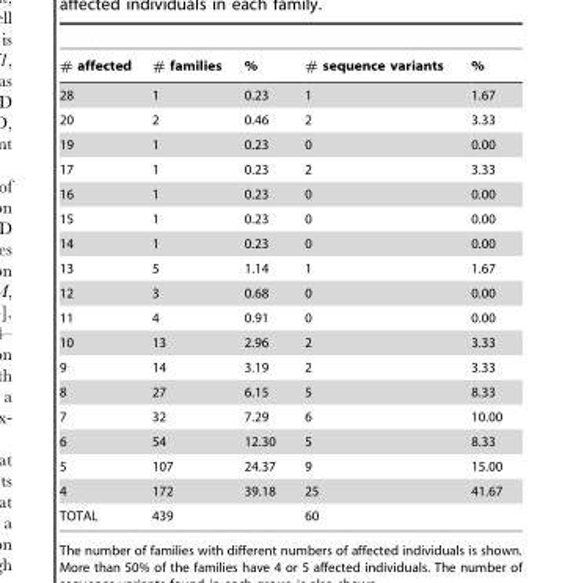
<table><thead><tr><td># affected</td><td># families</td><td>%</td><td># sequence variants</td><td>%</td></tr></thead><tbody><tr><td>28</td><td>1</td><td>0.23</td><td>1</td><td>1.67</td></tr><tr><td>20</td><td>2</td><td>0.46</td><td>2</td><td>3.33</td></tr><tr><td>19</td><td>1</td><td>0.23</td><td>0</td><td>0.00</td></tr><tr><td>17</td><td>1</td><td>0.23</td><td>2</td><td>3.33</td></tr><tr><td>16</td><td>1</td><td>0.23</td><td>0</td><td>0.00</td></tr><tr><td>15</td><td>1</td><td>0.23</td><td>0</td><td>0.00</td></tr><tr><td>14</td><td>1</td><td>0.23</td><td>0</td><td>0.00</td></tr><tr><td>13</td><td>5</td><td>1.14</td><td>1</td><td>1.67</td></tr><tr><td>12</td><td>3</td><td>0.68</td><td>0</td><td>0.00</td></tr><tr><td>11</td><td>4</td><td>0.91</td><td>0</td><td>0.00</td></tr><tr><td>10</td><td>13</td><td>2.96</td><td>2</td><td>3.33</td></tr><tr><td>9</td><td>14</td><td>3.19</td><td>2</td><td>3.33</td></tr><tr><td>8</td><td>27</td><td>6.15</td><td>5</td><td>8.33</td></tr><tr><td>7</td><td>32</td><td>7.29</td><td>6</td><td>10.00</td></tr><tr><td>6</td><td>54</td><td>12.30</td><td>5</td><td>8.33</td></tr><tr><td>5</td><td>107</td><td>24.37</td><td>9</td><td>15.00</td></tr><tr><td>4</td><td>172</td><td>39.18</td><td>25</td><td>41.67</td></tr><tr><td>TOTAL</td><td>439</td><td></td><td>60</td><td></td></tr></tbody></table>